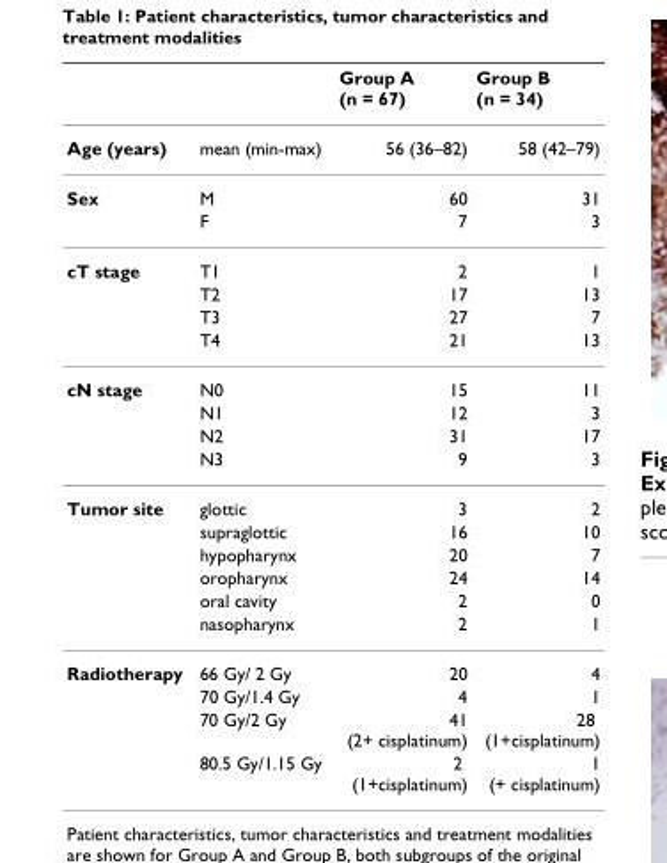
<table><thead><tr><td></td><td></td><td>Group A (n = 67)</td><td>Group B (n = 34)</td></tr></thead><tbody><tr><td>Age (years)</td><td>mean (min-max)</td><td>56 (36–82)</td><td>58 (42–79)</td></tr><tr><td rowspan="2">Sex</td><td>M</td><td>60</td><td>31</td></tr><tr><td>F</td><td>7</td><td>3</td></tr><tr><td rowspan="4">cT stage</td><td>T1</td><td>2</td><td>1</td></tr><tr><td>T2</td><td>17</td><td>13</td></tr><tr><td>T3</td><td>27</td><td>7</td></tr><tr><td>T4</td><td>21</td><td>13</td></tr><tr><td rowspan="4">cN stage</td><td>N0</td><td>15</td><td>11</td></tr><tr><td>N1</td><td>12</td><td>3</td></tr><tr><td>N2</td><td>31</td><td>17</td></tr><tr><td>N3</td><td>9</td><td>3</td></tr><tr><td rowspan="6">Tumor site</td><td>glottic</td><td>3</td><td>2</td></tr><tr><td>supraglottic</td><td>16</td><td>10</td></tr><tr><td>hypopharynx</td><td>20</td><td>7</td></tr><tr><td>oropharynx</td><td>24</td><td>14</td></tr><tr><td>oral cavity</td><td>2</td><td>0</td></tr><tr><td>nasopharynx</td><td>2</td><td>1</td></tr><tr><td rowspan="4">Radiotherapy</td><td>66 Gy/ 2 Gy</td><td>20</td><td>4</td></tr><tr><td>70 Gy/1.4 Gy</td><td>4</td><td>1</td></tr><tr><td>70 Gy/2 Gy</td><td>41 (2+ cisplatinum)</td><td>28 (1+cisplatinum)</td></tr><tr><td>80.5 Gy/1.15 Gy</td><td>2 (1+cisplatinum)</td><td>1 (+ cisplatinum)</td></tr></tbody></table>